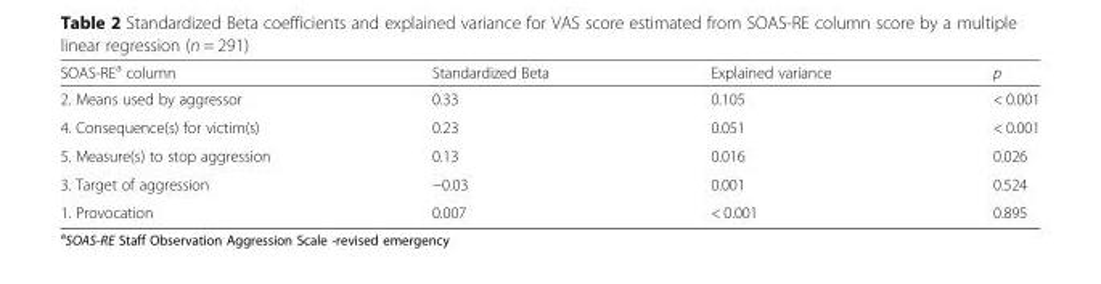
<table><thead><tr><td>SOAS-RE<sup>a</sup> column</td><td>Standardized Beta</td><td>Explained variance</td><td>p</td></tr></thead><tbody><tr><td>2. Means used by aggressor</td><td>0.33</td><td>0.105</td><td>&lt; 0.001</td></tr><tr><td>4. Consequence(s) for victim(s)</td><td>0.23</td><td>0.051</td><td>&lt; 0.001</td></tr><tr><td>5. Measure(s) to stop aggression</td><td>0.13</td><td>0.016</td><td>0.026</td></tr><tr><td>3. Target of aggression</td><td>−0.03</td><td>0.001</td><td>0.524</td></tr><tr><td>1. Provocation</td><td>0.007</td><td>&lt; 0.001</td><td>0.895</td></tr></tbody></table>